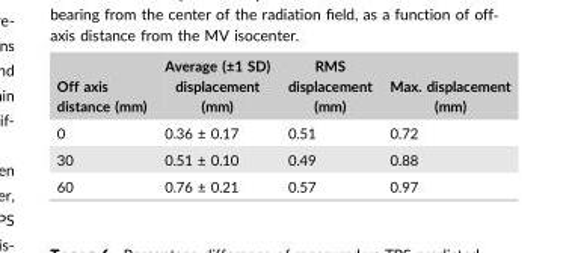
<table><thead><tr><td>Off axis distance (mm)</td><td>Average (±1 SD) displacement (mm)</td><td>RMS displacement (mm)</td><td>Max. displacement (mm)</td></tr></thead><tbody><tr><td>0</td><td>0.36 ± 0.17</td><td>0.51</td><td>0.72</td></tr><tr><td>30</td><td>0.51 ± 0.10</td><td>0.49</td><td>0.88</td></tr><tr><td>60</td><td>0.76 ± 0.21</td><td>0.57</td><td>0.97</td></tr></tbody></table>